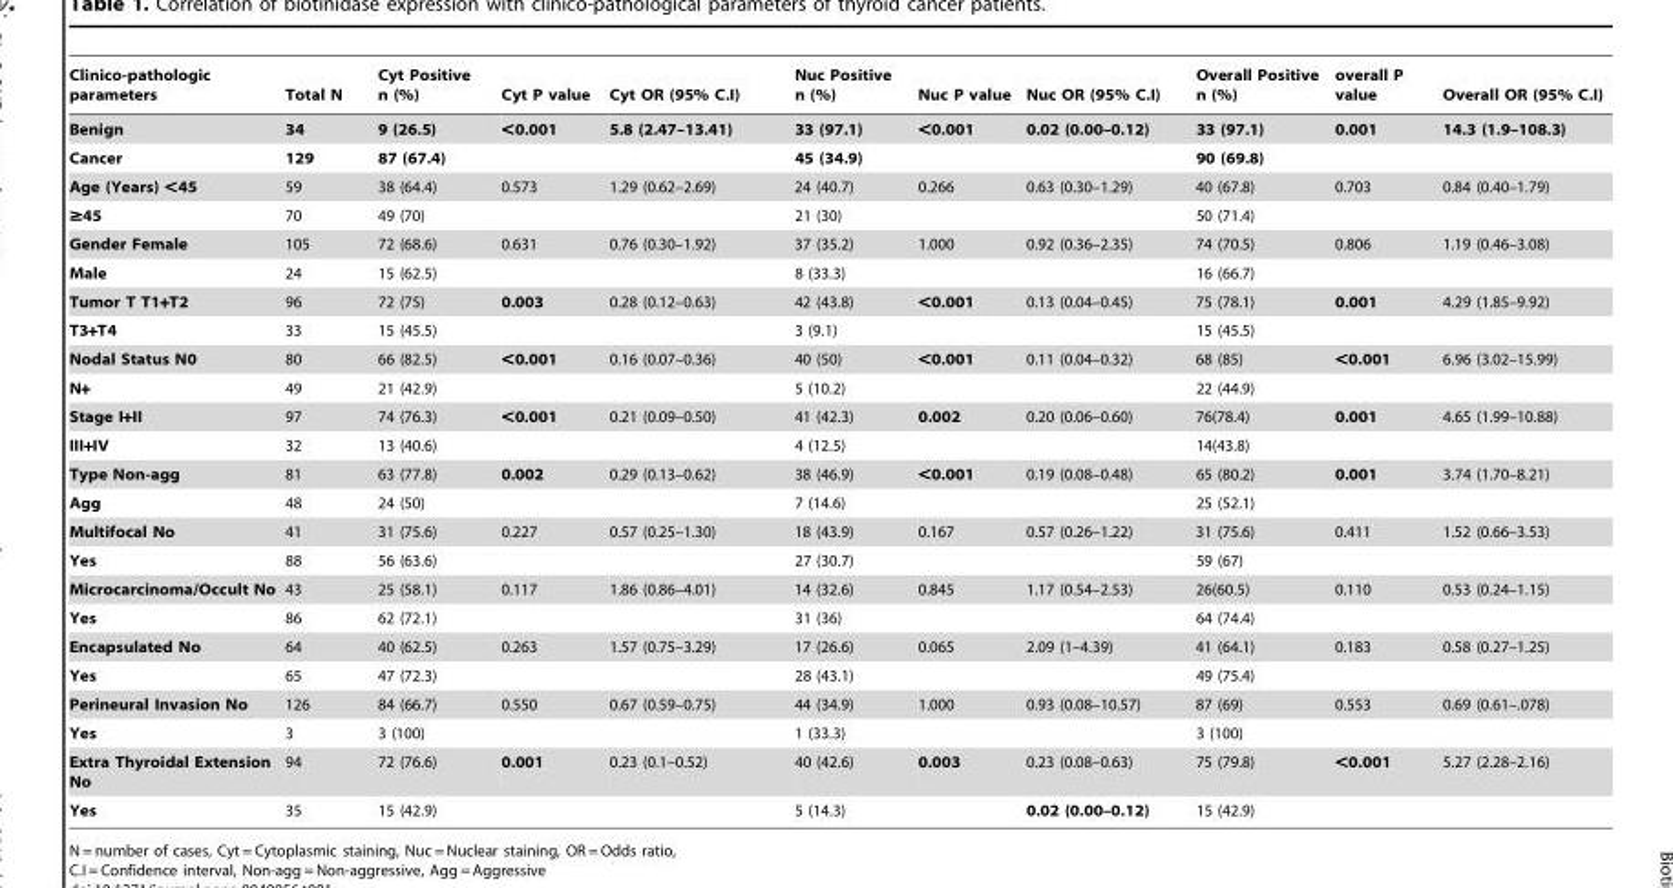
<table><thead><tr><td>Clinico-pathologic parameters</td><td>Total N</td><td>Cyt Positive n (%)</td><td>Cyt P value</td><td>Cyt OR (95% C.I)</td><td>Nuc Positive n (%)</td><td>Nuc P value</td><td>Nuc OR (95% C.I)</td><td>Overall Positive n (%)</td><td>overall P value</td><td>Overall OR (95% C.I)</td></tr></thead><tbody><tr><td>Benign</td><td>34</td><td>9 (26.5)</td><td>&lt;0.001</td><td>5.8 (2.47–13.41)</td><td>33 (97.1)</td><td>&lt;0.001</td><td>0.02 (0.00–0.12)</td><td>33 (97.1)</td><td>0.001</td><td>14.3 (1.9–108.3)</td></tr><tr><td>Cancer</td><td>129</td><td>87 (67.4)</td><td></td><td></td><td>45 (34.9)</td><td></td><td></td><td>90 (69.8)</td><td></td><td></td></tr><tr><td>Age (Years) &lt;45</td><td>59</td><td>38 (64.4)</td><td>0.573</td><td>1.29 (0.62–2.69)</td><td>24 (40.7)</td><td>0.266</td><td>0.63 (0.30–1.29)</td><td>40 (67.8)</td><td>0.703</td><td>0.84 (0.40–1.79)</td></tr><tr><td>≥45</td><td>70</td><td>49 (70)</td><td></td><td></td><td>21 (30)</td><td></td><td></td><td>50 (71.4)</td><td></td><td></td></tr><tr><td>Gender Female</td><td>105</td><td>72 (68.6)</td><td>0.631</td><td>0.76 (0.30–1.92)</td><td>37 (35.2)</td><td>1.000</td><td>0.92 (0.36–2.35)</td><td>74 (70.5)</td><td>0.806</td><td>1.19 (0.46–3.08)</td></tr><tr><td>Male</td><td>24</td><td>15 (62.5)</td><td></td><td></td><td>8 (33.3)</td><td></td><td></td><td>16 (66.7)</td><td></td><td></td></tr><tr><td>Tumor T T1+T2</td><td>96</td><td>72 (75)</td><td>0.003</td><td>0.28 (0.12–0.63)</td><td>42 (43.8)</td><td>&lt;0.001</td><td>0.13 (0.04–0.45)</td><td>75 (78.1)</td><td>0.001</td><td>4.29 (1.85–9.92)</td></tr><tr><td>T3+T4</td><td>33</td><td>15 (45.5)</td><td></td><td></td><td>3 (9.1)</td><td></td><td></td><td>15 (45.5)</td><td></td><td></td></tr><tr><td>Nodal Status N0</td><td>80</td><td>66 (82.5)</td><td>&lt;0.001</td><td>0.16 (0.07–0.36)</td><td>40 (50)</td><td>&lt;0.001</td><td>0.11 (0.04–0.32)</td><td>68 (85)</td><td>&lt;0.001</td><td>6.96 (3.02–15.99)</td></tr><tr><td>N+</td><td>49</td><td>21 (42.9)</td><td></td><td></td><td>5 (10.2)</td><td></td><td></td><td>22 (44.9)</td><td></td><td></td></tr><tr><td>Stage I+II</td><td>97</td><td>74 (76.3)</td><td>&lt;0.001</td><td>0.21 (0.09–0.50)</td><td>41 (42.3)</td><td>0.002</td><td>0.20 (0.06–0.60)</td><td>76(78.4)</td><td>0.001</td><td>4.65 (1.99–10.88)</td></tr><tr><td>III+IV</td><td>32</td><td>13 (40.6)</td><td></td><td></td><td>4 (12.5)</td><td></td><td></td><td>14(43.8)</td><td></td><td></td></tr><tr><td>Type Non-agg</td><td>81</td><td>63 (77.8)</td><td>0.002</td><td>0.29 (0.13–0.62)</td><td>38 (46.9)</td><td>&lt;0.001</td><td>0.19 (0.08–0.48)</td><td>65 (80.2)</td><td>0.001</td><td>3.74 (1.70–8.21)</td></tr><tr><td>Agg</td><td>48</td><td>24 (50)</td><td></td><td></td><td>7 (14.6)</td><td></td><td></td><td>25 (52.1)</td><td></td><td></td></tr><tr><td>Multifocal No</td><td>41</td><td>31 (75.6)</td><td>0.227</td><td>0.57 (0.25–1.30)</td><td>18 (43.9)</td><td>0.167</td><td>0.57 (0.26–1.22)</td><td>31 (75.6)</td><td>0.411</td><td>1.52 (0.66–3.53)</td></tr><tr><td>Yes</td><td>88</td><td>56 (63.6)</td><td></td><td></td><td>27 (30.7)</td><td></td><td></td><td>59 (67)</td><td></td><td></td></tr><tr><td>Microcarcinoma/Occult No</td><td>43</td><td>25 (58.1)</td><td>0.117</td><td>1.86 (0.86–4.01)</td><td>14 (32.6)</td><td>0.845</td><td>1.17 (0.54–2.53)</td><td>26(60.5)</td><td>0.110</td><td>0.53 (0.24–1.15)</td></tr><tr><td>Yes</td><td>86</td><td>62 (72.1)</td><td></td><td></td><td>31 (36)</td><td></td><td></td><td>64 (74.4)</td><td></td><td></td></tr><tr><td>Encapsulated No</td><td>64</td><td>40 (62.5)</td><td>0.263</td><td>1.57 (0.75–3.29)</td><td>17 (26.6)</td><td>0.065</td><td>2.09 (1–4.39)</td><td>41 (64.1)</td><td>0.183</td><td>0.58 (0.27–1.25)</td></tr><tr><td>Yes</td><td>65</td><td>47 (72.3)</td><td></td><td></td><td>28 (43.1)</td><td></td><td></td><td>49 (75.4)</td><td></td><td></td></tr><tr><td>Perineural Invasion No</td><td>126</td><td>84 (66.7)</td><td>0.550</td><td>0.67 (0.59–0.75)</td><td>44 (34.9)</td><td>1.000</td><td>0.93 (0.08–10.57)</td><td>87 (69)</td><td>0.553</td><td>0.69 (0.61–.078)</td></tr><tr><td>Yes</td><td>3</td><td>3 (100)</td><td></td><td></td><td>1 (33.3)</td><td></td><td></td><td>3 (100)</td><td></td><td></td></tr><tr><td>Extra Thyroidal Extension No</td><td>94</td><td>72 (76.6)</td><td>0.001</td><td>0.23 (0.1–0.52)</td><td>40 (42.6)</td><td>0.003</td><td>0.23 (0.08–0.63)</td><td>75 (79.8)</td><td>&lt;0.001</td><td>5.27 (2.28–2.16)</td></tr><tr><td>Yes</td><td>35</td><td>15 (42.9)</td><td></td><td></td><td>5 (14.3)</td><td></td><td>0.02 (0.00–0.12)</td><td>15 (42.9)</td><td></td><td></td></tr></tbody></table>